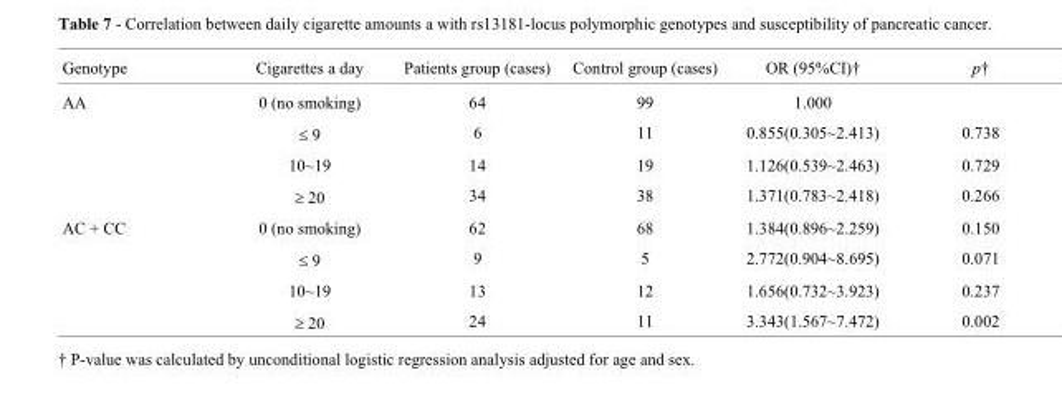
<table><thead><tr><td>Genotype</td><td>Cigarettes a day</td><td>Patients group (cases)</td><td>Control group (cases)</td><td>OR (95%CI)†</td><td>p†</td></tr></thead><tbody><tr><td rowspan="4">AA</td><td>0 (no smoking)</td><td>64</td><td>99</td><td>1.000</td><td></td></tr><tr><td>≤ 9</td><td>6</td><td>11</td><td>0.855(0.305~2.413)</td><td>0.738</td></tr><tr><td>10~19</td><td>14</td><td>19</td><td>1.126(0.539~2.463)</td><td>0.729</td></tr><tr><td>≥ 20</td><td>34</td><td>38</td><td>1.371(0.783~2.418)</td><td>0.266</td></tr><tr><td rowspan="4">AC + CC</td><td>0 (no smoking)</td><td>62</td><td>68</td><td>1.384(0.896~2.259)</td><td>0.150</td></tr><tr><td>≤ 9</td><td>9</td><td>5</td><td>2.772(0.904~8.695)</td><td>0.071</td></tr><tr><td>10~19</td><td>13</td><td>12</td><td>1.656(0.732~3.923)</td><td>0.237</td></tr><tr><td>≥ 20</td><td>24</td><td>11</td><td>3.343(1.567~7.472)</td><td>0.002</td></tr></tbody></table>